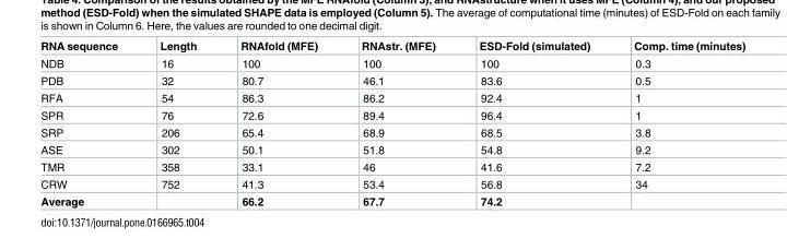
<table><thead><tr><td>RNA sequence</td><td>Length</td><td>RNAfold (MFE)</td><td>RNAstr. (MFE)</td><td>ESD-Fold (simulated)</td><td>Comp. time (minutes)</td></tr></thead><tbody><tr><td>NDB</td><td>16</td><td>100</td><td>100</td><td>100</td><td>0.3</td></tr><tr><td>PDB</td><td>32</td><td>80.7</td><td>46.1</td><td>83.6</td><td>0.5</td></tr><tr><td>RFA</td><td>54</td><td>86.3</td><td>86.2</td><td>92.4</td><td>1</td></tr><tr><td>SPR</td><td>76</td><td>72.6</td><td>89.4</td><td>96.4</td><td>1</td></tr><tr><td>SRP</td><td>206</td><td>65.4</td><td>68.9</td><td>68.5</td><td>3.8</td></tr><tr><td>ASE</td><td>302</td><td>50.1</td><td>51.8</td><td>54.8</td><td>9.2</td></tr><tr><td>TMR</td><td>358</td><td>33.1</td><td>46</td><td>41.6</td><td>7.2</td></tr><tr><td>CRW</td><td>752</td><td>41.3</td><td>53.4</td><td>56.8</td><td>34</td></tr><tr><td>Average</td><td></td><td>66.2</td><td>67.7</td><td>74.2</td><td></td></tr></tbody></table>